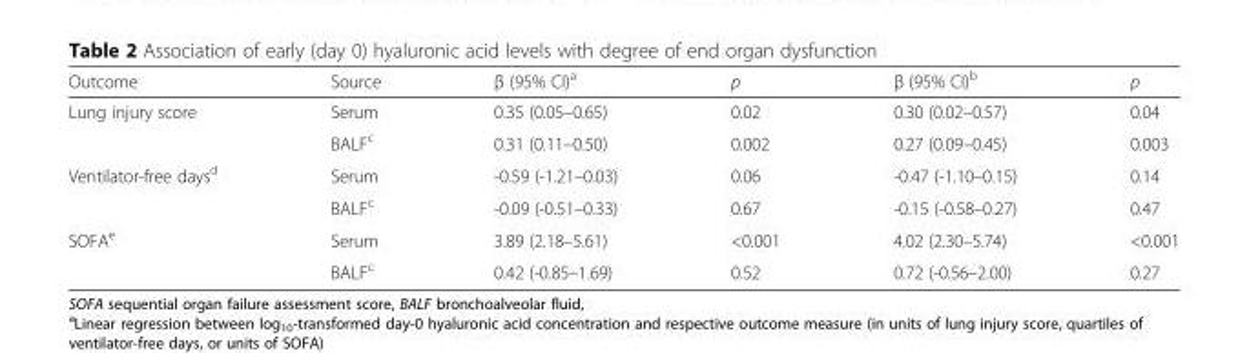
<table><thead><tr><td>Outcome</td><td>Source</td><td>β (95% CI)<sup>a</sup></td><td>p</td><td>β (95% CI)<sup>b</sup></td><td>p</td></tr></thead><tbody><tr><td rowspan="2">Lung injury score</td><td>Serum</td><td>0.35 (0.05–0.65)</td><td>0.02</td><td>0.30 (0.02–0.57)</td><td>0.04</td></tr><tr><td>BALF<sup>c</sup></td><td>0.31 (0.11–0.50)</td><td>0.002</td><td>0.27 (0.09–0.45)</td><td>0.003</td></tr><tr><td rowspan="2">Ventilator-free days<sup>d</sup></td><td>Serum</td><td>-0.59 (-1.21–0.03)</td><td>0.06</td><td>-0.47 (-1.10–0.15)</td><td>0.14</td></tr><tr><td>BALF<sup>c</sup></td><td>-0.09 (-0.51–0.33)</td><td>0.67</td><td>-0.15 (-0.58–0.27)</td><td>0.47</td></tr><tr><td rowspan="2">SOFA<sup>e</sup></td><td>Serum</td><td>3.89 (2.18–5.61)</td><td>&lt;0.001</td><td>4.02 (2.30–5.74)</td><td>&lt;0.001</td></tr><tr><td>BALF<sup>c</sup></td><td>0.42 (-0.85–1.69)</td><td>0.52</td><td>0.72 (-0.56–2.00)</td><td>0.27</td></tr></tbody></table>